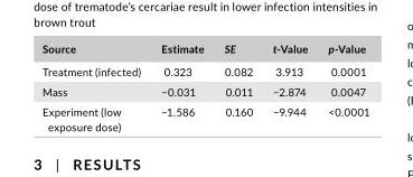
<table><thead><tr><td>Source</td><td>Estimate</td><td>SE</td><td>t- Value</td><td>p- Value</td></tr></thead><tbody><tr><td>Treatment (infected)</td><td>0.323</td><td>0.082</td><td>3.913</td><td>0.0001</td></tr><tr><td>Mass</td><td>−0.031</td><td>0.011</td><td>−2.874</td><td>0.0047</td></tr><tr><td>Experiment (low exposure dose)</td><td>−1.586</td><td>0.160</td><td>−9.944</td><td>&lt;0.0001</td></tr></tbody></table>